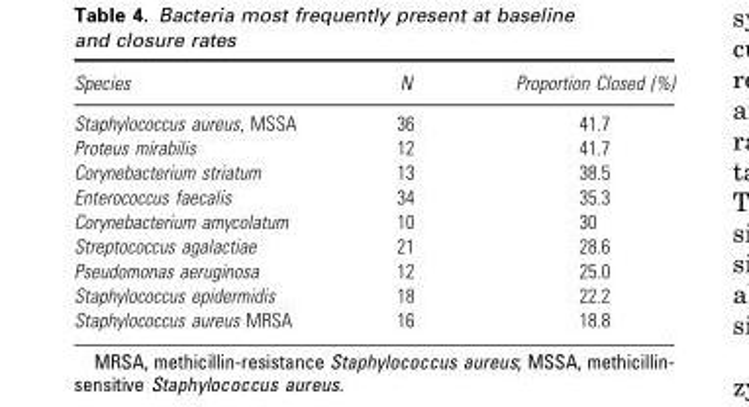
<table><thead><tr><td>Species</td><td>N</td><td>Proportion Closed (%)</td></tr></thead><tbody><tr><td>Staphylococcus aureus, MSSA</td><td>36</td><td>41.7</td></tr><tr><td>Proteus mirabilis</td><td>12</td><td>41.7</td></tr><tr><td>Corynebacterium striatum</td><td>13</td><td>38.5</td></tr><tr><td>Enterococcus faecalis</td><td>34</td><td>35.3</td></tr><tr><td>Corynebacterium amycolatum</td><td>10</td><td>30</td></tr><tr><td>Streptococcus agalactiae</td><td>21</td><td>28.6</td></tr><tr><td>Pseudomonas aeruginosa</td><td>12</td><td>25.0</td></tr><tr><td>Staphylococcus epidermidis</td><td>18</td><td>22.2</td></tr><tr><td>Staphylococcus aureus MRSA</td><td>16</td><td>18.8</td></tr></tbody></table>